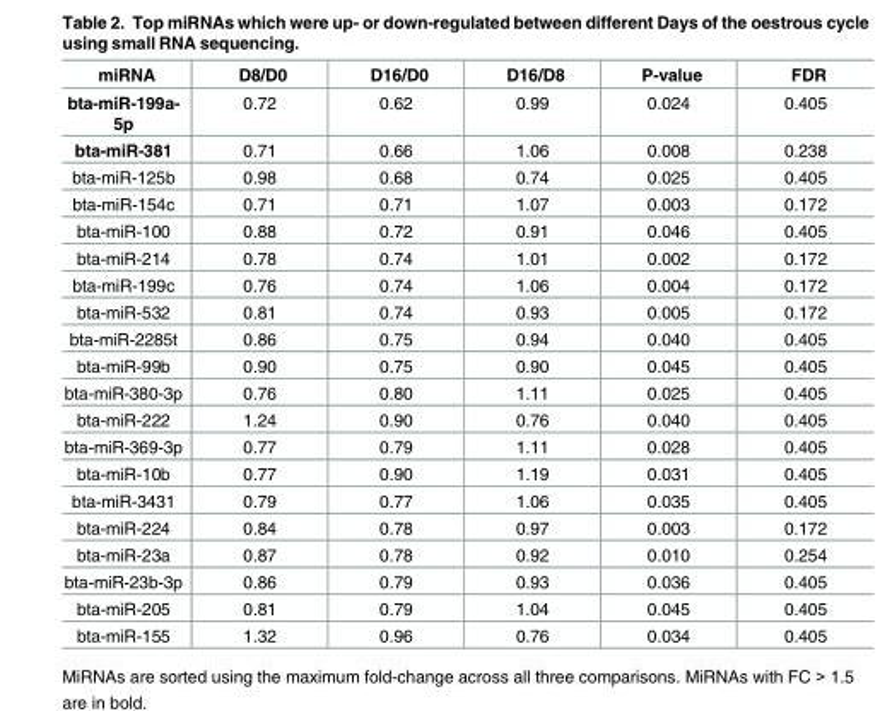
<table><thead><tr><td>miRNA</td><td>D8/D0</td><td>D16/D0</td><td>D16/D8</td><td>P-value</td><td>FDR</td></tr></thead><tbody><tr><td>bta-miR-199a- 5p</td><td>0.72</td><td>0.62</td><td>0.99</td><td>0.024</td><td>0.405</td></tr><tr><td>bta-miR-381</td><td>0.71</td><td>0.66</td><td>1.06</td><td>0.008</td><td>0.238</td></tr><tr><td>bta-miR-125b</td><td>0.98</td><td>0.68</td><td>0.74</td><td>0.025</td><td>0.405</td></tr><tr><td>bta-miR-154c</td><td>0.71</td><td>0.71</td><td>1.07</td><td>0.003</td><td>0.172</td></tr><tr><td>bta-miR-100</td><td>0.88</td><td>0.72</td><td>0.91</td><td>0.046</td><td>0.405</td></tr><tr><td>bta-miR-214</td><td>0.78</td><td>0.74</td><td>1.01</td><td>0.002</td><td>0.172</td></tr><tr><td>bta-miR-199c</td><td>0.76</td><td>0.74</td><td>1.06</td><td>0.004</td><td>0.172</td></tr><tr><td>bta-miR-532</td><td>0.81</td><td>0.74</td><td>0.93</td><td>0.005</td><td>0.172</td></tr><tr><td>bta-miR-2285t</td><td>0.86</td><td>0.75</td><td>0.94</td><td>0.040</td><td>0.405</td></tr><tr><td>bta-miR-99b</td><td>0.90</td><td>0.75</td><td>0.90</td><td>0.045</td><td>0.405</td></tr><tr><td>bta-miR-380-3p</td><td>0.76</td><td>0.80</td><td>1.11</td><td>0.025</td><td>0.405</td></tr><tr><td>bta-miR-222</td><td>1.24</td><td>0.90</td><td>0.76</td><td>0.040</td><td>0.405</td></tr><tr><td>bta-miR-369-3p</td><td>0.77</td><td>0.79</td><td>1.11</td><td>0.028</td><td>0.405</td></tr><tr><td>bta-miR-10b</td><td>0.77</td><td>0.90</td><td>1.19</td><td>0.031</td><td>0.405</td></tr><tr><td>bta-miR-3431</td><td>0.79</td><td>0.77</td><td>1.06</td><td>0.035</td><td>0.405</td></tr><tr><td>bta-miR-224</td><td>0.84</td><td>0.78</td><td>0.97</td><td>0.003</td><td>0.172</td></tr><tr><td>bta-miR-23a</td><td>0.87</td><td>0.78</td><td>0.92</td><td>0.010</td><td>0.254</td></tr><tr><td>bta-miR-23b-3p</td><td>0.86</td><td>0.79</td><td>0.93</td><td>0.036</td><td>0.405</td></tr><tr><td>bta-miR-205</td><td>0.81</td><td>0.79</td><td>1.04</td><td>0.045</td><td>0.405</td></tr><tr><td>bta-miR-155</td><td>1.32</td><td>0.96</td><td>0.76</td><td>0.034</td><td>0.405</td></tr></tbody></table>